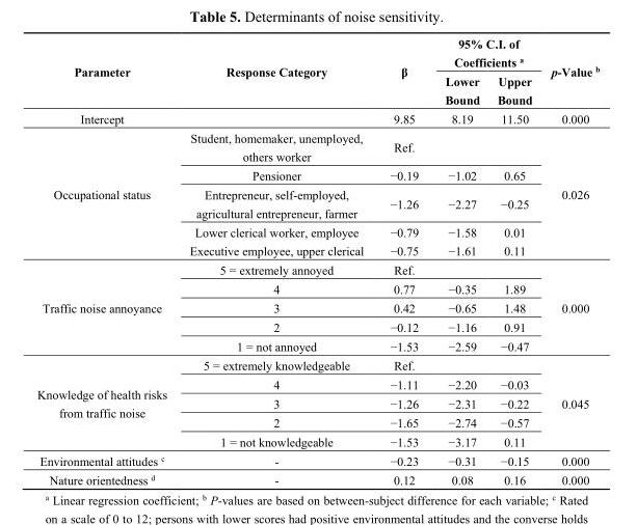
<table><thead><tr><td rowspan="2">Parameter</td><td rowspan="2">Response Category</td><td rowspan="2">β</td><td colspan="2">95% C.I. of Coefficients <sup>a</sup></td><td rowspan="2">p-Value <sup>b</sup></td></tr><tr><td>Lower Bound</td><td>Upper Bound</td></tr></thead><tbody><tr><td>Intercept</td><td></td><td>9.85</td><td>8.19</td><td>11.50</td><td>0.000</td></tr><tr><td rowspan="5">Occupational status</td><td>Student, homemaker, unemployed, others worker</td><td>Ref.</td><td></td><td></td><td rowspan="5">0.026</td></tr><tr><td>Pensioner</td><td>−0.19</td><td>−1.02</td><td>0.65</td></tr><tr><td>Entrepreneur, self-employed, agricultural entrepreneur, farmer</td><td>−1.26</td><td>−2.27</td><td>−0.25</td></tr><tr><td>Lower clerical worker, employee</td><td>−0.79</td><td>−1.58</td><td>0.01</td></tr><tr><td>Executive employee, upper clerical</td><td>−0.75</td><td>−1.61</td><td>0.11</td></tr><tr><td rowspan="5">Traffic noise annoyance</td><td>5 = extremely annoyed</td><td>Ref.</td><td></td><td></td><td rowspan="5">0.000</td></tr><tr><td>4</td><td>0.77</td><td>−0.35</td><td>1.89</td></tr><tr><td>3</td><td>0.42</td><td>−0.65</td><td>1.48</td></tr><tr><td>2</td><td>−0.12</td><td>−1.16</td><td>0.91</td></tr><tr><td>1 = not annoyed</td><td>−1.53</td><td>−2.59</td><td>−0.47</td></tr><tr><td rowspan="5">Knowledge of health risks from traffic noise</td><td>5 = extremely knowledgeable</td><td>Ref.</td><td></td><td></td><td rowspan="5">0.045</td></tr><tr><td>4</td><td>−1.11</td><td>−2.20</td><td>−0.03</td></tr><tr><td>3</td><td>−1.26</td><td>−2.31</td><td>−0.22</td></tr><tr><td>2</td><td>−1.65</td><td>−2.74</td><td>−0.57</td></tr><tr><td>1 = not knowledgeable</td><td>−1.53</td><td>−3.17</td><td>0.11</td></tr><tr><td>Environmental attitudes <sup>c</sup></td><td>-</td><td>−0.23</td><td>−0.31</td><td>−0.15</td><td>0.000</td></tr><tr><td>Nature orientedness <sup>d</sup></td><td>-</td><td>0.12</td><td>0.08</td><td>0.16</td><td>0.000</td></tr></tbody></table>